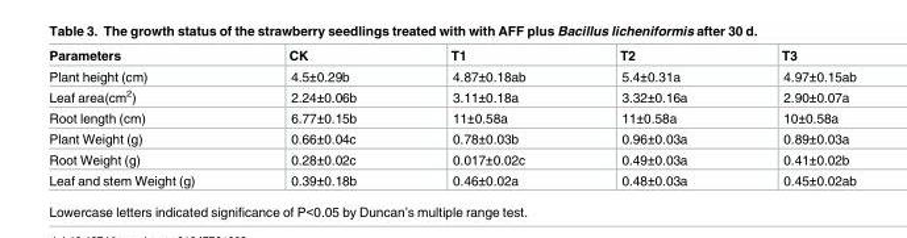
<table><thead><tr><td>Parameters</td><td>CK</td><td>T1</td><td>T2</td><td>T3</td></tr></thead><tbody><tr><td>Plant height (cm)</td><td>4.5±0.29b</td><td>4.87±0.18ab</td><td>5.4±0.31a</td><td>4.97±0.15ab</td></tr><tr><td>Leaf area(cm<sup>2</sup>)</td><td>2.24±0.06b</td><td>3.11±0.18a</td><td>3.32±0.16a</td><td>2.90±0.07a</td></tr><tr><td>Root length (cm)</td><td>6.77±0.15b</td><td>11±0.58a</td><td>11±0.58a</td><td>10±0.58a</td></tr><tr><td>Plant Weight (g)</td><td>0.66±0.04c</td><td>0.78±0.03b</td><td>0.96±0.03a</td><td>0.89±0.03a</td></tr><tr><td>Root Weight (g)</td><td>0.28±0.02c</td><td>0.017±0.02c</td><td>0.49±0.03a</td><td>0.41±0.02b</td></tr><tr><td>Leaf and stem Weight (g)</td><td>0.39±0.18b</td><td>0.46±0.02a</td><td>0.48±0.03a</td><td>0.45±0.02ab</td></tr></tbody></table>